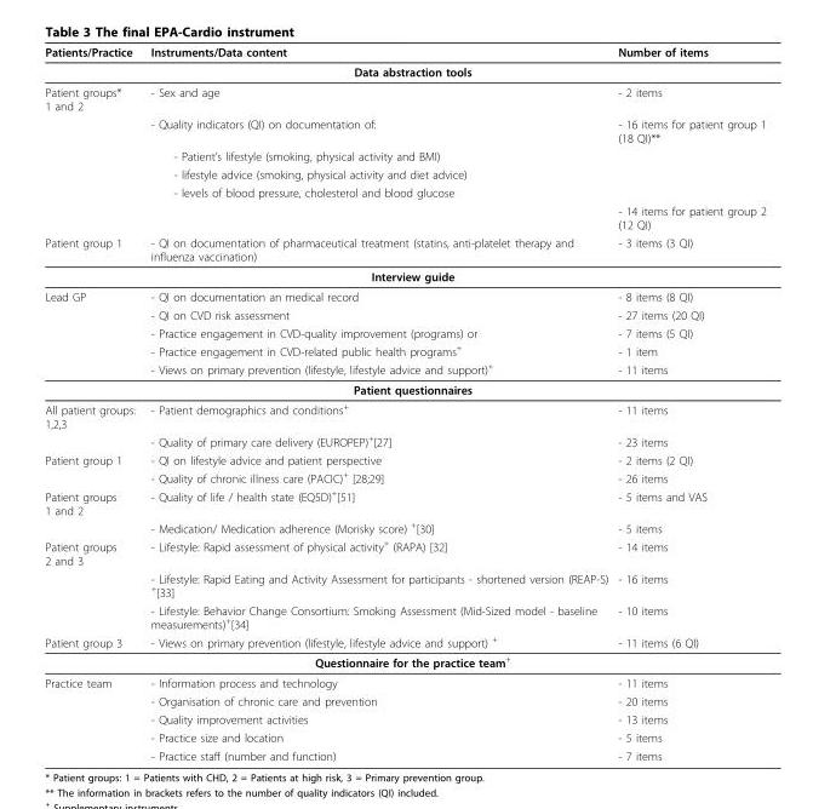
<table><thead><tr><td>Patients/Practice</td><td>Instruments/Data content</td><td>Number of items</td></tr></thead><tbody><tr><td colspan="3">Data abstraction tools</td></tr><tr><td rowspan="6">Patient groups* 1 and 2</td><td>- Sex and age</td><td>- 2 items</td></tr><tr><td>- Quality indicators (QI) on documentation of:</td><td>- 16 items for patient group 1 (18 QI)**</td></tr><tr><td>- Patient’s lifestyle (smoking, physical activity and BMI)</td><td></td></tr><tr><td>- lifestyle advice (smoking, physical activity and diet advice)</td><td></td></tr><tr><td>- levels of blood pressure, cholesterol and blood glucose</td><td></td></tr><tr><td></td><td>- 14 items for patient group 2 (12 QI)</td></tr><tr><td>Patient group 1</td><td>- QI on documentation of pharmaceutical treatment (statins, anti-platelet therapy and influenza vaccination)</td><td>- 3 items (3 QI)</td></tr><tr><td colspan="3">Interview guide</td></tr><tr><td rowspan="5">Lead GP</td><td>- QI on documentation an medical record</td><td>- 8 items (8 QI)</td></tr><tr><td>- QI on CVD risk assessment</td><td>- 27 items (20 QI)</td></tr><tr><td>- Practice engagement in CVD-quality improvement (programs) or</td><td>- 7 items (5 QI)</td></tr><tr><td>- Practice engagement in CVD-related public health programs<sup>+</sup></td><td>- 1 item</td></tr><tr><td>- Views on primary prevention (lifestyle, lifestyle advice and support)<sup>+</sup></td><td>- 11 items</td></tr><tr><td colspan="3">Patient questionnaires</td></tr><tr><td rowspan="2">All patient groups: 1,2,3</td><td>- Patient demographics and conditions<sup>+</sup></td><td>- 11 items</td></tr><tr><td>- Quality of primary care delivery (EUROPEP)<sup>+</sup>[27]</td><td>- 23 items</td></tr><tr><td rowspan="2">Patient group 1</td><td>- QI on lifestyle advice and patient perspective</td><td>- 2 items (2 QI)</td></tr><tr><td>- Quality of chronic illness care (PACIC)<sup>+</sup> [28;29]</td><td>- 26 items</td></tr><tr><td rowspan="2">Patient groups 1 and 2</td><td>- Quality of life / health state (EQ5D)<sup>+</sup>[51]</td><td>- 5 items and VAS</td></tr><tr><td>- Medication/ Medication adherence (Morisky score) <sup>+</sup>[30]</td><td>- 5 items</td></tr><tr><td rowspan="3">Patient groups 2 and 3</td><td>- Lifestyle: Rapid assessment of physical activity<sup>+</sup> (RAPA) [32]</td><td>- 14 items</td></tr><tr><td>- Lifestyle: Rapid Eating and Activity Assessment for participants - shortened version (REAP-S) <sup>+</sup>[33]</td><td>- 16 items</td></tr><tr><td>- Lifestyle: Behavior Change Consortium: Smoking Assessment (Mid-Sized model - baseline measurements)<sup>+</sup>[34]</td><td>- 10 items</td></tr><tr><td>Patient group 3</td><td>- Views on primary prevention (lifestyle, lifestyle advice and support) <sup>+</sup></td><td>- 11 items (6 QI)</td></tr><tr><td colspan="3">Questionnaire for the practice team<sup>+</sup></td></tr><tr><td rowspan="5">Practice team</td><td>- Information process and technology</td><td>- 11 items</td></tr><tr><td>- Organisation of chronic care and prevention</td><td>- 20 items</td></tr><tr><td>- Quality improvement activities</td><td>- 13 items</td></tr><tr><td>- Practice size and location</td><td>- 5 items</td></tr><tr><td>- Practice staff (number and function)</td><td>- 7 items</td></tr></tbody></table>